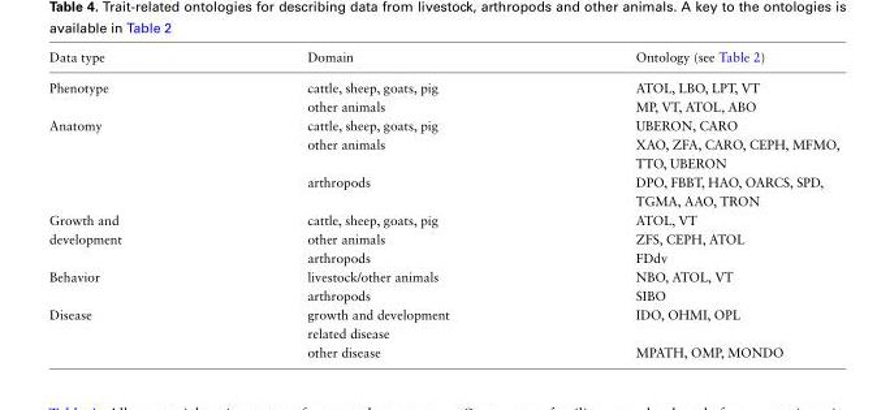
<table><thead><tr><td>Data type</td><td>Domain</td><td>Ontology (see Table 2)</td></tr></thead><tbody><tr><td>Phenotype</td><td>cattle, sheep, goats, pig other animals</td><td>ATOL, LBO, LPT, VT MP, VT, ATOL, ABO</td></tr><tr><td>Anatomy</td><td>cattle, sheep, goats, pig other animals arthropods</td><td>UBERON, CARO XAO, ZFA, CARO, CEPH, MFMO, TTO, UBERON DPO, FBBT, HAO, OARCS, SPD, TGMA, AAO, TRON</td></tr><tr><td>Growth and development</td><td>cattle, sheep, goats, pig other animals arthropods</td><td>ATOL, VT ZFS, CEPH, ATOL FDdv</td></tr><tr><td>Behavior</td><td>livestock/other animals arthropods</td><td>NBO, ATOL, VT SIBO</td></tr><tr><td>Disease</td><td>growth and development related disease other disease</td><td>IDO, OHMI, OPL MPATH, OMP, MONDO</td></tr></tbody></table>